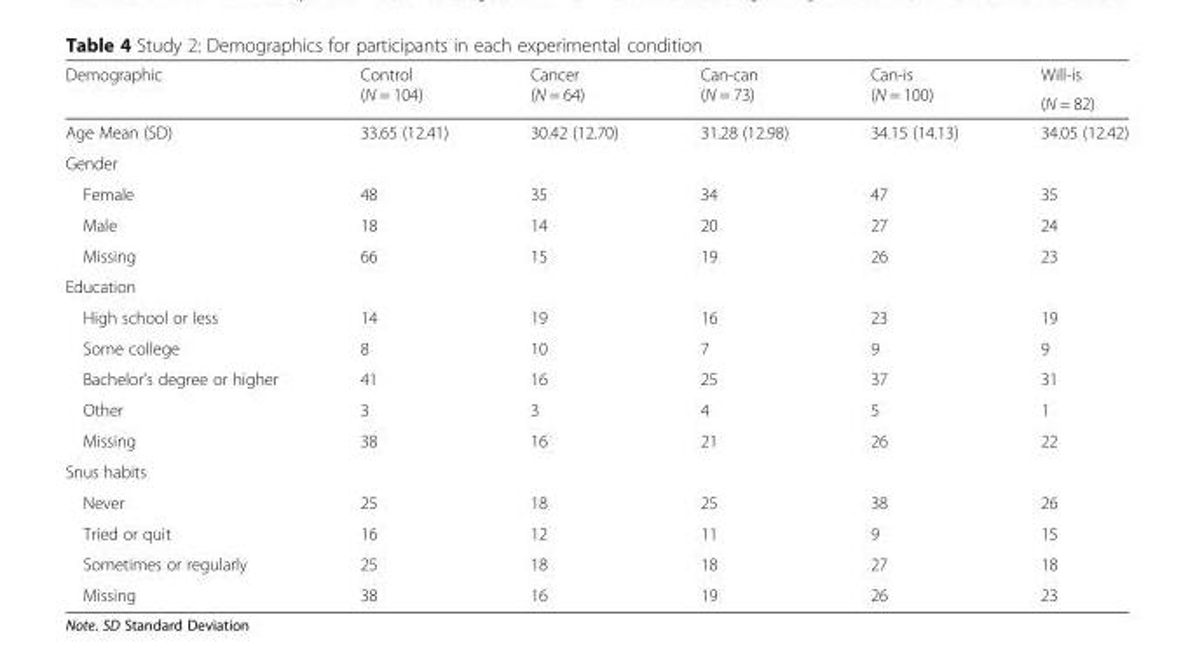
<table><thead><tr><td rowspan="2">Demographic</td><td rowspan="2">Control (N = 104)</td><td rowspan="2">Cancer (N = 64)</td><td rowspan="2">Can-can (N = 73)</td><td rowspan="2">Can-is (N = 100)</td><td rowspan="2">Will-is (N = 82)</td></tr><tr></tr></thead><tbody><tr><td>Age Mean (SD)</td><td>33.65 (12.41)</td><td>30.42 (12.70)</td><td>31.28 (12.98)</td><td>34.15 (14.13)</td><td>34.05 (12.42)</td></tr><tr><td colspan="6">Gender</td></tr><tr><td>Female</td><td>48</td><td>35</td><td>34</td><td>47</td><td>35</td></tr><tr><td>Male</td><td>18</td><td>14</td><td>20</td><td>27</td><td>24</td></tr><tr><td>Missing</td><td>66</td><td>15</td><td>19</td><td>26</td><td>23</td></tr><tr><td colspan="6">Education</td></tr><tr><td>High school or less</td><td>14</td><td>19</td><td>16</td><td>23</td><td>19</td></tr><tr><td>Some college</td><td>8</td><td>10</td><td>7</td><td>9</td><td>9</td></tr><tr><td>Bachelor’s degree or higher</td><td>41</td><td>16</td><td>25</td><td>37</td><td>31</td></tr><tr><td>Other</td><td>3</td><td>3</td><td>4</td><td>5</td><td>1</td></tr><tr><td>Missing</td><td>38</td><td>16</td><td>21</td><td>26</td><td>22</td></tr><tr><td colspan="6">Snus habits</td></tr><tr><td>Never</td><td>25</td><td>18</td><td>25</td><td>38</td><td>26</td></tr><tr><td>Tried or quit</td><td>16</td><td>12</td><td>11</td><td>9</td><td>15</td></tr><tr><td>Sometimes or regularly</td><td>25</td><td>18</td><td>18</td><td>27</td><td>18</td></tr><tr><td>Missing</td><td>38</td><td>16</td><td>19</td><td>26</td><td>23</td></tr></tbody></table>